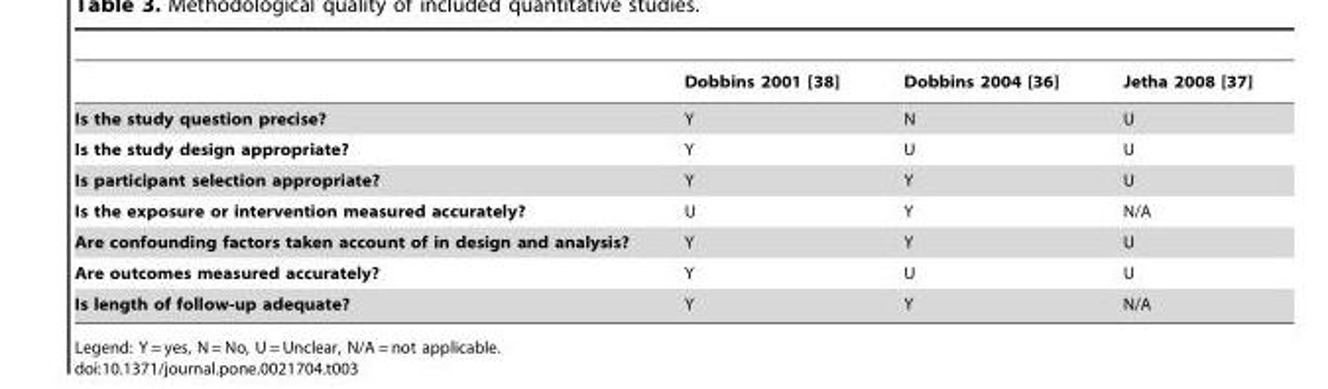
<table><thead><tr><td></td><td>Dobbins 2001 [38]</td><td>Dobbins 2004 [36]</td><td>Jetha 2008 [37]</td></tr></thead><tbody><tr><td>Is the study question precise?</td><td>Y</td><td>N</td><td>U</td></tr><tr><td>Is the study design appropriate?</td><td>Y</td><td>U</td><td>U</td></tr><tr><td>Is participant selection appropriate?</td><td>Y</td><td>Y</td><td>U</td></tr><tr><td>Is the exposure or intervention measured accurately?</td><td>U</td><td>Y</td><td>N/A</td></tr><tr><td>Are confounding factors taken account of in design and analysis?</td><td>Y</td><td>Y</td><td>U</td></tr><tr><td>Are outcomes measured accurately?</td><td>Y</td><td>U</td><td>U</td></tr><tr><td>Is length of follow-up adequate?</td><td>Y</td><td>Y</td><td>N/A</td></tr></tbody></table>